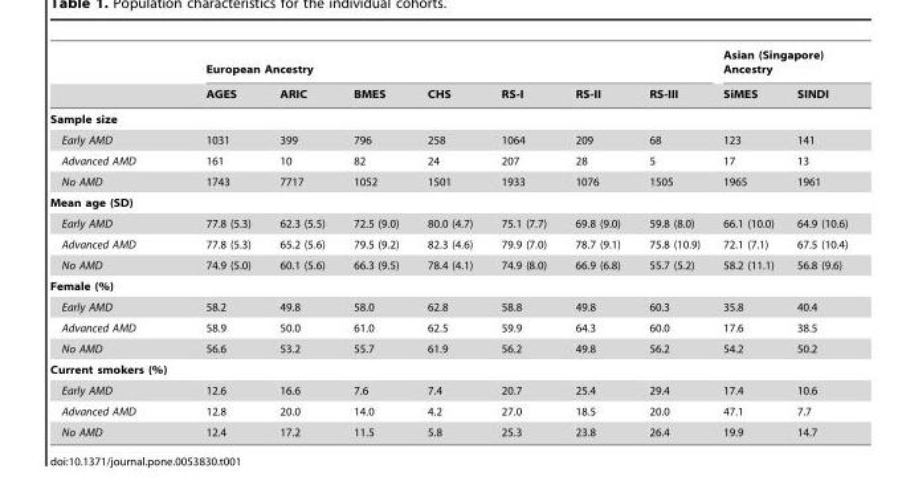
<table><thead><tr><td rowspan="2"></td><td colspan="7">European Ancestry</td><td colspan="2">Asian (Singapore) Ancestry</td></tr><tr><td>AGES</td><td>ARIC</td><td>BMES</td><td>CHS</td><td>RS-I</td><td>RS-II</td><td>RS-III</td><td>SiMES</td><td>SINDI</td></tr></thead><tbody><tr><td colspan="10">Sample size</td></tr><tr><td>Early AMD</td><td>1031</td><td>399</td><td>796</td><td>258</td><td>1064</td><td>209</td><td>68</td><td>123</td><td>141</td></tr><tr><td>Advanced AMD</td><td>161</td><td>10</td><td>82</td><td>24</td><td>207</td><td>28</td><td>5</td><td>17</td><td>13</td></tr><tr><td>No AMD</td><td>1743</td><td>7717</td><td>1052</td><td>1501</td><td>1933</td><td>1076</td><td>1505</td><td>1965</td><td>1961</td></tr><tr><td colspan="10">Mean age (SD)</td></tr><tr><td>Early AMD</td><td>77.8 (5.3)</td><td>62.3 (5.5)</td><td>72.5 (9.0)</td><td>80.0 (4.7)</td><td>75.1 (7.7)</td><td>69.8 (9.0)</td><td>59.8 (8.0)</td><td>66.1 (10.0)</td><td>64.9 (10.6)</td></tr><tr><td>Advanced AMD</td><td>77.8 (5.3)</td><td>65.2 (5.6)</td><td>79.5 (9.2)</td><td>82.3 (4.6)</td><td>79.9 (7.0)</td><td>78.7 (9.1)</td><td>75.8 (10.9)</td><td>72.1 (7.1)</td><td>67.5 (10.4)</td></tr><tr><td>No AMD</td><td>74.9 (5.0)</td><td>60.1 (5.6)</td><td>66.3 (9.5)</td><td>78.4 (4.1)</td><td>74.9 (8.0)</td><td>66.9 (6.8)</td><td>55.7 (5.2)</td><td>58.2 (11.1)</td><td>56.8 (9.6)</td></tr><tr><td colspan="10">Female (%)</td></tr><tr><td>Early AMD</td><td>58.2</td><td>49.8</td><td>58.0</td><td>62.8</td><td>58.8</td><td>49.8</td><td>60.3</td><td>35.8</td><td>40.4</td></tr><tr><td>Advanced AMD</td><td>58.9</td><td>50.0</td><td>61.0</td><td>62.5</td><td>59.9</td><td>64.3</td><td>60.0</td><td>17.6</td><td>38.5</td></tr><tr><td>No AMD</td><td>56.6</td><td>53.2</td><td>55.7</td><td>61.9</td><td>56.2</td><td>49.8</td><td>56.2</td><td>54.2</td><td>50.2</td></tr><tr><td colspan="10">Current smokers (%)</td></tr><tr><td>Early AMD</td><td>12.6</td><td>16.6</td><td>7.6</td><td>7.4</td><td>20.7</td><td>25.4</td><td>29.4</td><td>17.4</td><td>10.6</td></tr><tr><td>Advanced AMD</td><td>12.8</td><td>20.0</td><td>14.0</td><td>4.2</td><td>27.0</td><td>18.5</td><td>20.0</td><td>47.1</td><td>7.7</td></tr><tr><td>No AMD</td><td>12.4</td><td>17.2</td><td>11.5</td><td>5.8</td><td>25.3</td><td>23.8</td><td>26.4</td><td>19.9</td><td>14.7</td></tr></tbody></table>